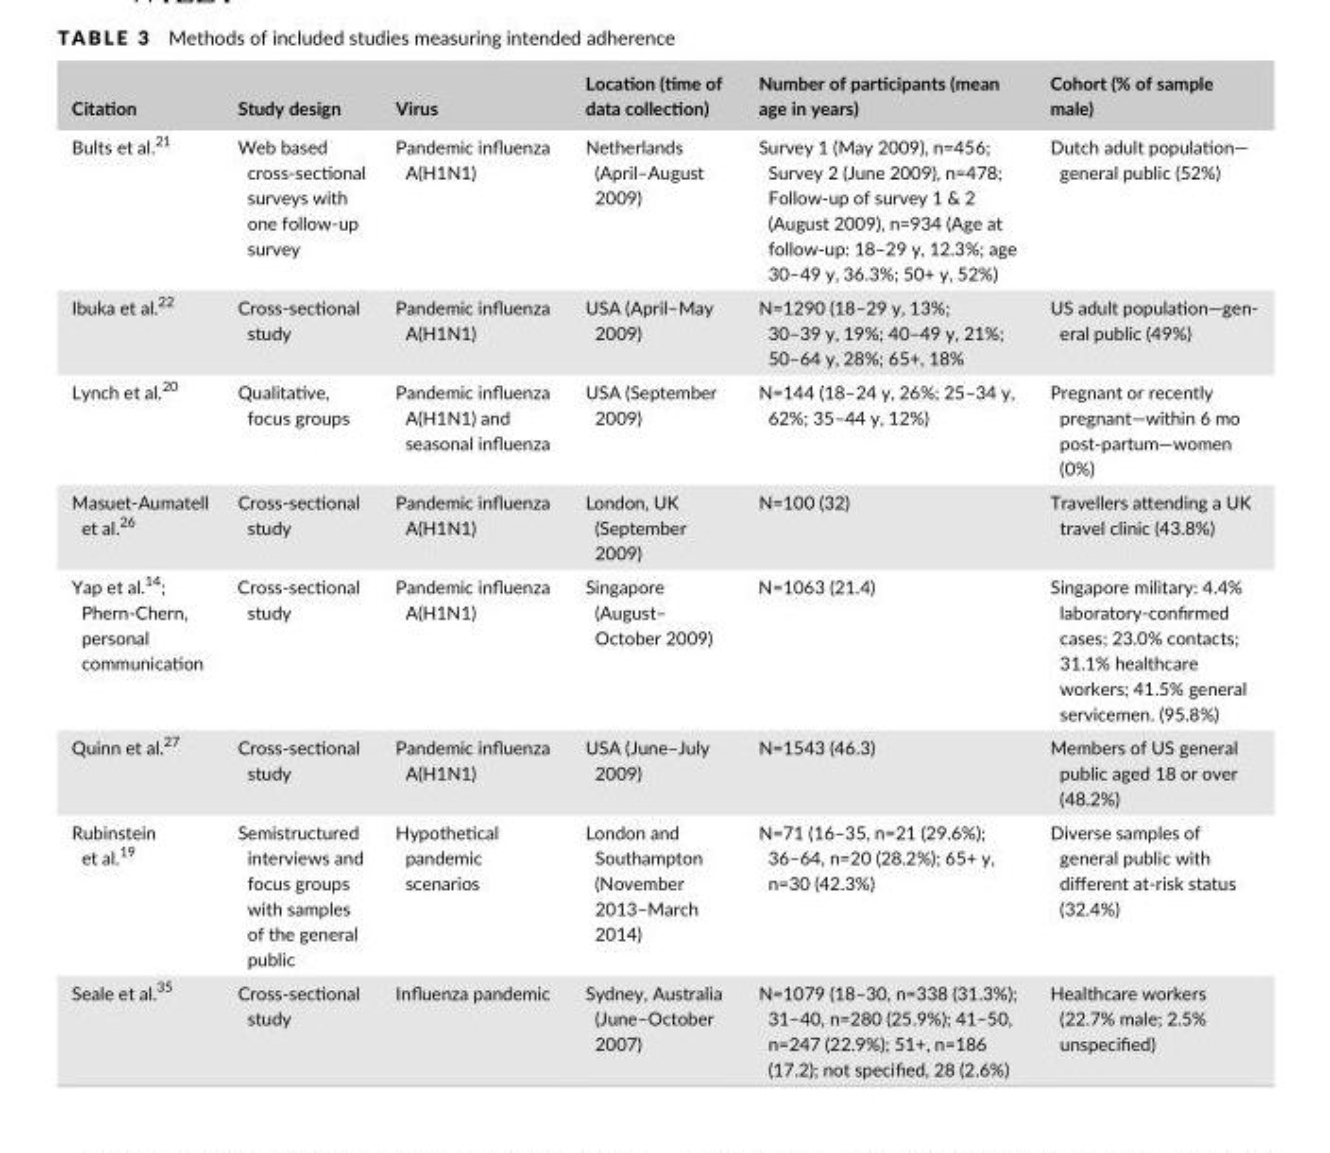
<table><thead><tr><td>Citation</td><td>Study design</td><td>Virus</td><td>Location (time of data collection)</td><td>Number of participants (mean age in years)</td><td>Cohort (% of sample male)</td></tr></thead><tbody><tr><td>Bults et al.<sup>21</sup></td><td>Web based cross- sectional surveys with one follow- up survey</td><td>Pandemic influenza A(H1N1)</td><td>Netherlands (April–August 2009)</td><td>Survey 1 (May 2009), n=456; Survey 2 (June 2009), n=478; Follow- up of survey 1 &amp; 2 (August 2009), n=934 (Age at follow- up: 18–29 y, 12.3%; age 30–49 y, 36.3%; 50+ y, 52%)</td><td>Dutch adult population— general public (52%)</td></tr><tr><td>Ibuka et al.<sup>22</sup></td><td>Cross- sectional study</td><td>Pandemic influenza A(H1N1)</td><td>USA (April–May 2009)</td><td>N=1290 (18–29 y, 13%; 30–39 y, 19%; 40–49 y, 21%; 50–64 y, 28%; 65+, 18%</td><td>US adult population—gen- eral public (49%)</td></tr><tr><td>Lynch et al.<sup>20</sup></td><td>Qualitative, focus groups</td><td>Pandemic influenza A(H1N1) and seasonal influenza</td><td>USA (September 2009)</td><td>N=144 (18–24 y, 26%; 25–34 y, 62%; 35–44 y, 12%)</td><td>Pregnant or recently pregnant—within 6 mo post- partum—women (0%)</td></tr><tr><td>Masuet- Aumatell et al.<sup>26</sup></td><td>Cross- sectional study</td><td>Pandemic influenza A(H1N1)</td><td>London, UK (September 2009)</td><td>N=100 (32)</td><td>Travellers attending a UK travel clinic (43.8%)</td></tr><tr><td>Yap et al.<sup>14</sup>; Phern- Chern, personal communication</td><td>Cross- sectional study</td><td>Pandemic influenza A(H1N1)</td><td>Singapore (August– October 2009)</td><td>N=1063 (21.4)</td><td>Singapore military: 4.4% laboratory- confirmed cases; 23.0% contacts; 31.1% healthcare workers; 41.5% general servicemen. (95.8%)</td></tr><tr><td>Quinn et al.<sup>27</sup></td><td>Cross- sectional study</td><td>Pandemic influenza A(H1N1)</td><td>USA (June–July 2009)</td><td>N=1543 (46.3)</td><td>Members of US general public aged 18 or over (48.2%)</td></tr><tr><td>Rubinstein et al.<sup>19</sup></td><td>Semistructured interviews and focus groups with samples of the general public</td><td>Hypothetical pandemic scenarios</td><td>London and Southampton (November 2013–March 2014)</td><td>N=71 (16–35, n=21 (29.6%); 36–64, n=20 (28.2%); 65+ y, n=30 (42.3%)</td><td>Diverse samples of general public with different at- risk status (32.4%)</td></tr><tr><td>Seale et al.<sup>35</sup></td><td>Cross- sectional study</td><td>Influenza pandemic</td><td>Sydney, Australia (June–October 2007)</td><td>N=1079 (18–30, n=338 (31.3%); 31–40, n=280 (25.9%); 41–50, n=247 (22.9%); 51+, n=186 (17.2); not specified, 28 (2.6%)</td><td>Healthcare workers (22.7% male; 2.5% unspecified)</td></tr></tbody></table>